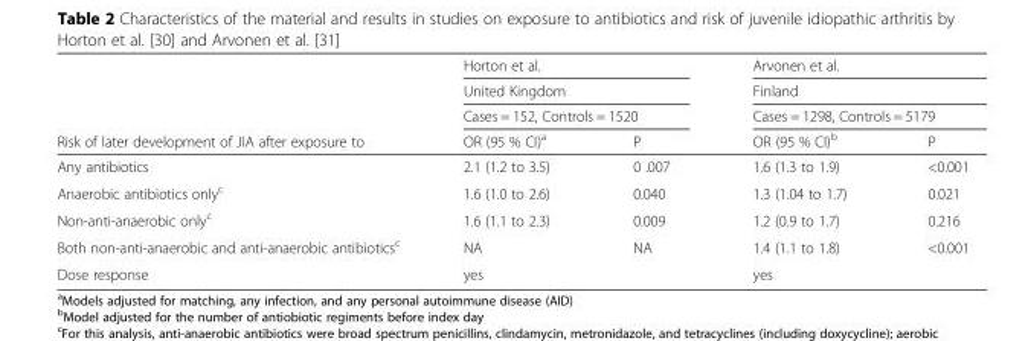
<table><thead><tr><td rowspan="4">Risk of later development of JIA after exposure to</td><td rowspan="3" colspan="2">Horton et al. United Kingdom Cases = 152, Controls = 1520</td><td rowspan="3" colspan="2">Arvonen et al. Finland Cases = 1298, Controls = 5179</td></tr><tr></tr><tr></tr><tr><td>OR (95 % CI)<sup>a</sup></td><td>P</td><td>OR (95 % CI)<sup>b</sup></td><td>P</td></tr></thead><tbody><tr><td>Any antibiotics</td><td>2.1 (1.2 to 3.5)</td><td>0 .007</td><td>1.6 (1.3 to 1.9)</td><td>&lt;0.001</td></tr><tr><td>Anaerobic antibiotics only<sup>c</sup></td><td>1.6 (1.0 to 2.6)</td><td>0.040</td><td>1.3 (1.04 to 1.7)</td><td>0.021</td></tr><tr><td>Non-anti-anaerobic only<sup>c</sup></td><td>1.6 (1.1 to 2.3)</td><td>0.009</td><td>1.2 (0.9 to 1.7)</td><td>0.216</td></tr><tr><td>Both non-anti-anaerobic and anti-anaerobic antibiotics<sup>c</sup></td><td>NA</td><td>NA</td><td>1.4 (1.1 to 1.8)</td><td>&lt;0.001</td></tr><tr><td>Dose response</td><td>yes</td><td></td><td>yes</td><td></td></tr></tbody></table>